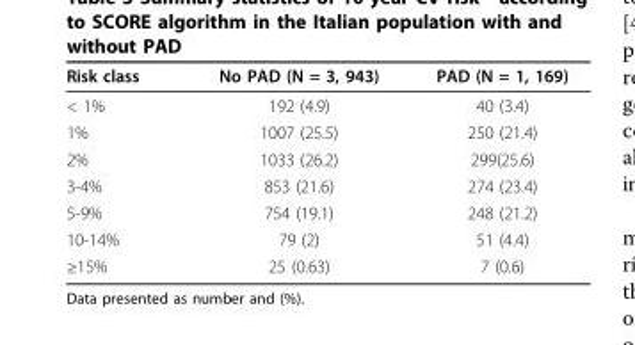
<table><thead><tr><td>Risk class</td><td>No PAD (N = 3, 943)</td><td>PAD (N = 1, 169)</td></tr></thead><tbody><tr><td>&lt; 1%</td><td>192 (4.9)</td><td>40 (3.4)</td></tr><tr><td>1%</td><td>1007 (25.5)</td><td>250 (21.4)</td></tr><tr><td>2%</td><td>1033 (26.2)</td><td>299(25.6)</td></tr><tr><td>3-4%</td><td>853 (21.6)</td><td>274 (23.4)</td></tr><tr><td>5-9%</td><td>754 (19.1)</td><td>248 (21.2)</td></tr><tr><td>10-14%</td><td>79 (2)</td><td>51 (4.4)</td></tr><tr><td>≥15%</td><td>25 (0.63)</td><td>7 (0.6)</td></tr></tbody></table>